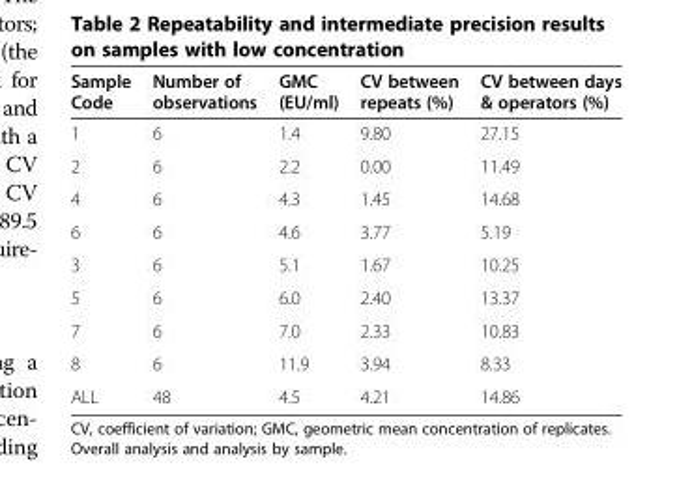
<table><thead><tr><td>Sample Code</td><td>Number of observations</td><td>GMC (EU/ml)</td><td>CV between repeats (%)</td><td>CV between days &amp; operators (%)</td></tr></thead><tbody><tr><td>1</td><td>6</td><td>1.4</td><td>9.80</td><td>27.15</td></tr><tr><td>2</td><td>6</td><td>2.2</td><td>0.00</td><td>11.49</td></tr><tr><td>4</td><td>6</td><td>4.3</td><td>1.45</td><td>14.68</td></tr><tr><td>6</td><td>6</td><td>4.6</td><td>3.77</td><td>5.19</td></tr><tr><td>3</td><td>6</td><td>5.1</td><td>1.67</td><td>10.25</td></tr><tr><td>5</td><td>6</td><td>6.0</td><td>2.40</td><td>13.37</td></tr><tr><td>7</td><td>6</td><td>7.0</td><td>2.33</td><td>10.83</td></tr><tr><td>8</td><td>6</td><td>11.9</td><td>3.94</td><td>8.33</td></tr><tr><td>ALL</td><td>48</td><td>4.5</td><td>4.21</td><td>14.86</td></tr></tbody></table>